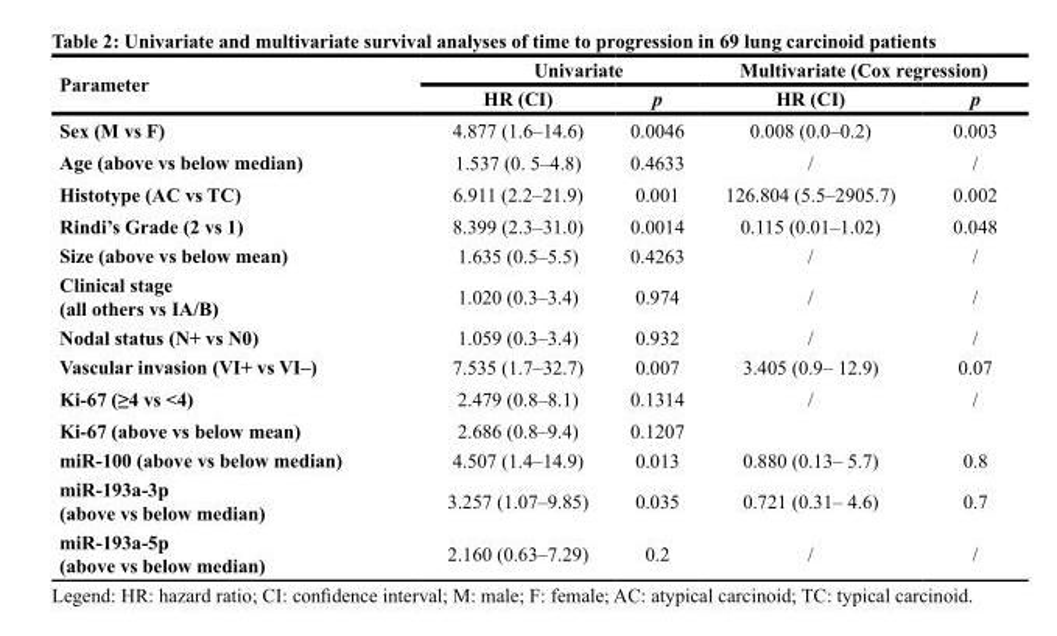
<table><thead><tr><td rowspan="2">Parameter</td><td colspan="2">Univariate</td><td colspan="2">Multivariate (Cox regression)</td></tr><tr><td>HR (CI)</td><td>p</td><td>HR (CI)</td><td>p</td></tr></thead><tbody><tr><td>Sex (M vs F)</td><td>4.877 (1.6–14.6)</td><td>0.0046</td><td>0.008 (0.0–0.2)</td><td>0.003</td></tr><tr><td>Age (above vs below median)</td><td>1.537 (0. 5–4.8)</td><td>0.4633</td><td>/</td><td>/</td></tr><tr><td>Histotype (AC vs TC)</td><td>6.911 (2.2–21.9)</td><td>0.001</td><td>126.804 (5.5–2905.7)</td><td>0.002</td></tr><tr><td>Rindi’s Grade (2 vs 1)</td><td>8.399 (2.3–31.0)</td><td>0.0014</td><td>0.115 (0.01–1.02)</td><td>0.048</td></tr><tr><td>Size (above vs below mean)</td><td>1.635 (0.5–5.5)</td><td>0.4263</td><td>/</td><td>/</td></tr><tr><td>Clinical stage (all others vs IA/B)</td><td>1.020 (0.3–3.4)</td><td>0.974</td><td>/</td><td>/</td></tr><tr><td>Nodal status (N+ vs N0)</td><td>1.059 (0.3–3.4)</td><td>0.932</td><td>/</td><td>/</td></tr><tr><td>Vascular invasion (VI+ vs VI–)</td><td>7.535 (1.7–32.7)</td><td>0.007</td><td>3.405 (0.9– 12.9)</td><td>0.07</td></tr><tr><td>Ki-67 (≥4 vs &lt;4)</td><td>2.479 (0.8–8.1)</td><td>0.1314</td><td>/</td><td>/</td></tr><tr><td>Ki-67 (above vs below mean)</td><td>2.686 (0.8–9.4)</td><td>0.1207</td><td></td><td></td></tr><tr><td>miR-100 (above vs below median)</td><td>4.507 (1.4–14.9)</td><td>0.013</td><td>0.880 (0.13– 5.7)</td><td>0.8</td></tr><tr><td>miR-193a-3p (above vs below median)</td><td>3.257 (1.07–9.85)</td><td>0.035</td><td>0.721 (0.31– 4.6)</td><td>0.7</td></tr><tr><td>miR-193a-5p (above vs below median)</td><td>2.160 (0.63–7.29)</td><td>0.2</td><td>/</td><td>/</td></tr></tbody></table>